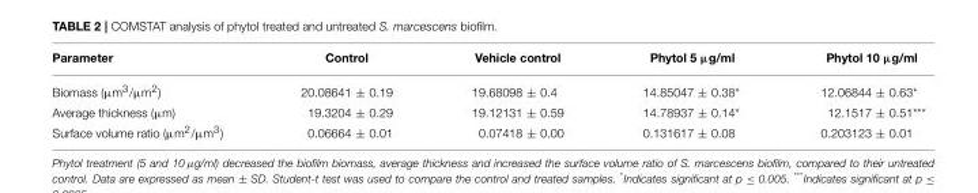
<table><thead><tr><td>Parameter</td><td>Control</td><td>Vehicle control</td><td>Phytol 5 µg/ml</td><td>Phytol 10 µg/ml</td></tr></thead><tbody><tr><td>Biomass (µm<sup>3</sup>/µm<sup>2</sup>)</td><td>20.08641 ± 0.19</td><td>19.68098 ± 0.4</td><td>14.85047 ± 0.38*</td><td>12.06844 ± 0.63*</td></tr><tr><td>Average thickness (µm)</td><td>19.3204 ± 0.29</td><td>19.12131 ± 0.59</td><td>14.78937 ± 0.14*</td><td>12.1517 ± 0.51***</td></tr><tr><td>Surface volume ratio (µm<sup>2</sup>/µm<sup>3</sup>)</td><td>0.06664 ± 0.01</td><td>0.07418 ± 0.00</td><td>0.131617 ± 0.08</td><td>0.203123 ± 0.01</td></tr></tbody></table>